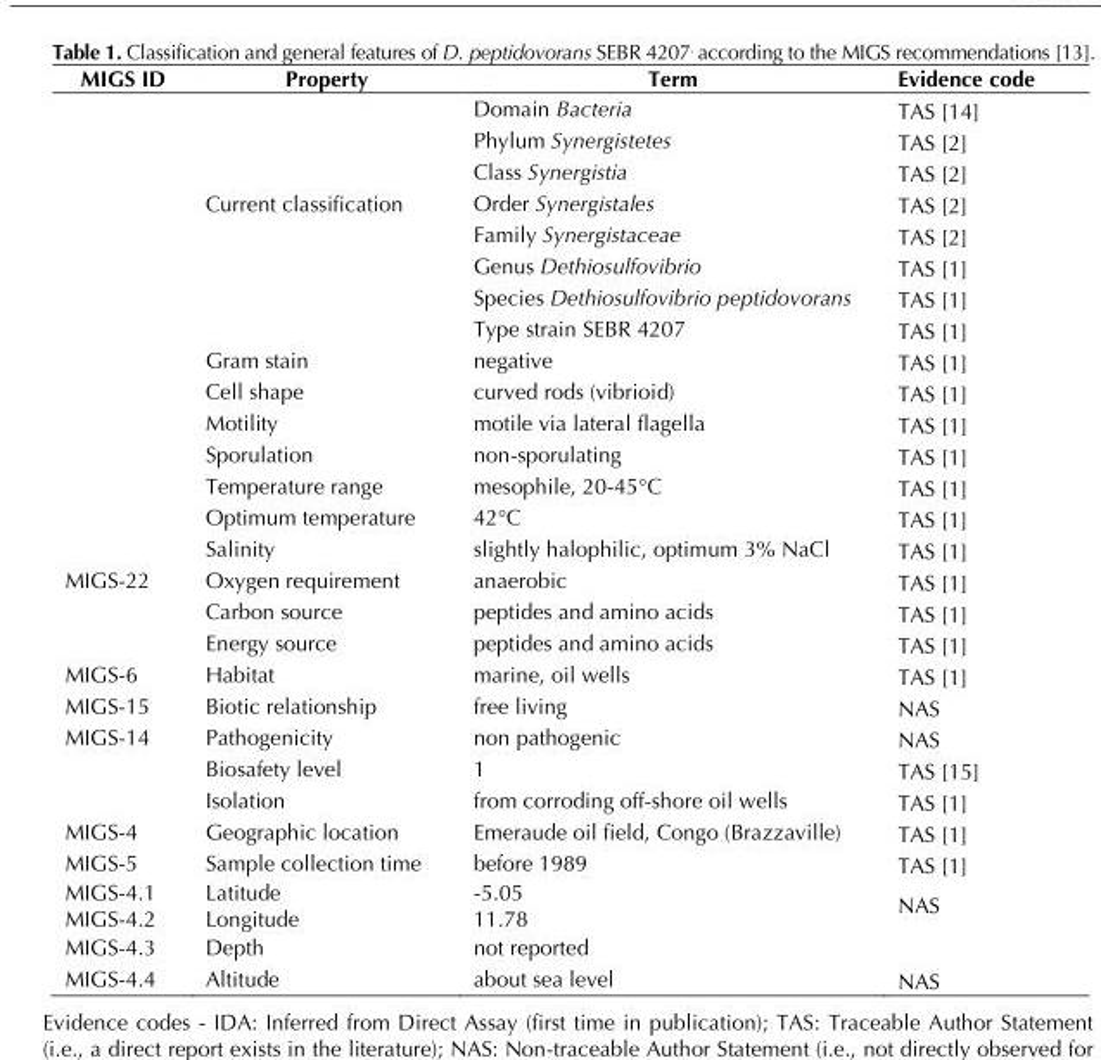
<table><thead><tr><td>MIGS ID</td><td>Property</td><td>Term</td><td>Evidence code</td></tr></thead><tbody><tr><td rowspan="8"></td><td rowspan="8">Current classification</td><td>Domain Bacteria</td><td>TAS [14]</td></tr><tr><td>Phylum Synergistetes</td><td>TAS [2]</td></tr><tr><td>Class Synergistia</td><td>TAS [2]</td></tr><tr><td>Order Synergistales</td><td>TAS [2]</td></tr><tr><td>Family Synergistaceae</td><td>TAS [2]</td></tr><tr><td>Genus Dethiosulfovibrio</td><td>TAS [1]</td></tr><tr><td>Species Dethiosulfovibrio peptidovorans</td><td>TAS [1]</td></tr><tr><td>Type strain SEBR 4207</td><td>TAS [1]</td></tr><tr><td></td><td>Gram stain</td><td>negative</td><td>TAS [1]</td></tr><tr><td></td><td>Cell shape</td><td>curved rods (vibrioid)</td><td>TAS [1]</td></tr><tr><td></td><td>Motility</td><td>motile via lateral flagella</td><td>TAS [1]</td></tr><tr><td></td><td>Sporulation</td><td>non-sporulating</td><td>TAS [1]</td></tr><tr><td></td><td>Temperature range</td><td>mesophile, 20-45°C</td><td>TAS [1]</td></tr><tr><td></td><td>Optimum temperature</td><td>42°C</td><td>TAS [1]</td></tr><tr><td></td><td>Salinity</td><td>slightly halophilic, optimum 3% NaCl</td><td>TAS [1]</td></tr><tr><td rowspan="3">MIGS-22</td><td>Oxygen requirement</td><td>anaerobic</td><td>TAS [1]</td></tr><tr><td>Carbon source</td><td>peptides and amino acids</td><td>TAS [1]</td></tr><tr><td>Energy source</td><td>peptides and amino acids</td><td>TAS [1]</td></tr><tr><td>MIGS-6</td><td>Habitat</td><td>marine, oil wells</td><td>TAS [1]</td></tr><tr><td>MIGS-15</td><td>Biotic relationship</td><td>free living</td><td>NAS</td></tr><tr><td rowspan="3">MIGS-14</td><td>Pathogenicity</td><td>non pathogenic</td><td>NAS</td></tr><tr><td>Biosafety level</td><td>1</td><td>TAS [15]</td></tr><tr><td>Isolation</td><td>from corroding off-shore oil wells</td><td>TAS [1]</td></tr><tr><td>MIGS-4</td><td>Geographic location</td><td>Emeraude oil field, Congo (Brazzaville)</td><td>TAS [1]</td></tr><tr><td>MIGS-5</td><td>Sample collection time</td><td>before 1989</td><td>TAS [1]</td></tr><tr><td>MIGS-4.1 MIGS-4.2</td><td>Latitude Longitude</td><td>-5.05 11.78</td><td>NAS</td></tr><tr><td>MIGS-4.3</td><td>Depth</td><td>not reported</td><td></td></tr><tr><td>MIGS-4.4</td><td>Altitude</td><td>about sea level</td><td>NAS</td></tr></tbody></table>